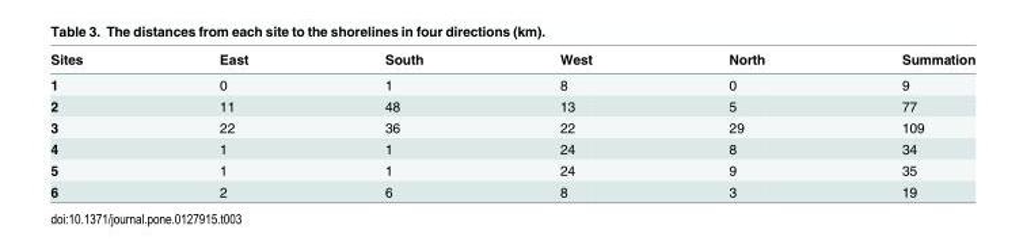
<table><thead><tr><td>Sites</td><td>East</td><td>South</td><td>West</td><td>North</td><td>Summation</td></tr></thead><tbody><tr><td>1</td><td>0</td><td>1</td><td>8</td><td>0</td><td>9</td></tr><tr><td>2</td><td>11</td><td>48</td><td>13</td><td>5</td><td>77</td></tr><tr><td>3</td><td>22</td><td>36</td><td>22</td><td>29</td><td>109</td></tr><tr><td>4</td><td>1</td><td>1</td><td>24</td><td>8</td><td>34</td></tr><tr><td>5</td><td>1</td><td>1</td><td>24</td><td>9</td><td>35</td></tr><tr><td>6</td><td>2</td><td>6</td><td>8</td><td>3</td><td>19</td></tr></tbody></table>